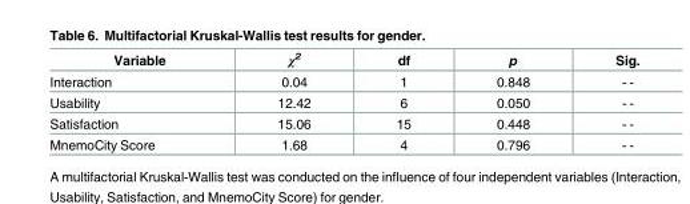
<table><thead><tr><td>Variable</td><td>χ<sup>2</sup></td><td>df</td><td>p</td><td>Sig.</td></tr></thead><tbody><tr><td>Interaction</td><td>0.04</td><td>1</td><td>0.848</td><td>- -</td></tr><tr><td>Usability</td><td>12.42</td><td>6</td><td>0.050</td><td>- -</td></tr><tr><td>Satisfaction</td><td>15.06</td><td>15</td><td>0.448</td><td>- -</td></tr><tr><td>MnemoCity Score</td><td>1.68</td><td>4</td><td>0.796</td><td>- -</td></tr></tbody></table>